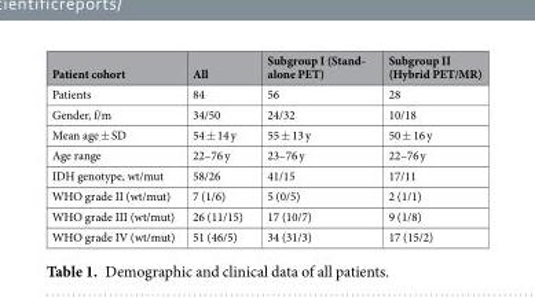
<table><thead><tr><td>Patient cohort</td><td>All</td><td>Subgroup I (Stand- alone PET)</td><td>Subgroup II (Hybrid PET/MR)</td></tr></thead><tbody><tr><td>Patients</td><td>84</td><td>56</td><td>28</td></tr><tr><td>Gender, f/m</td><td>34/50</td><td>24/32</td><td>10/18</td></tr><tr><td>Mean age ± SD</td><td>54 ± 14 y</td><td>55 ± 13 y</td><td>50 ± 16 y</td></tr><tr><td>Age range</td><td>22–76 y</td><td>23–76 y</td><td>22–76 y</td></tr><tr><td>IDH genotype, wt/mut</td><td>58/26</td><td>41/15</td><td>17/11</td></tr><tr><td>WHO grade II (wt/mut)</td><td>7 (1/6)</td><td>5 (0/5)</td><td>2 (1/1)</td></tr><tr><td>WHO grade III (wt/mut)</td><td>26 (11/15)</td><td>17 (10/7)</td><td>9 (1/8)</td></tr><tr><td>WHO grade IV (wt/mut)</td><td>51 (46/5)</td><td>34 (31/3)</td><td>17 (15/2)</td></tr></tbody></table>